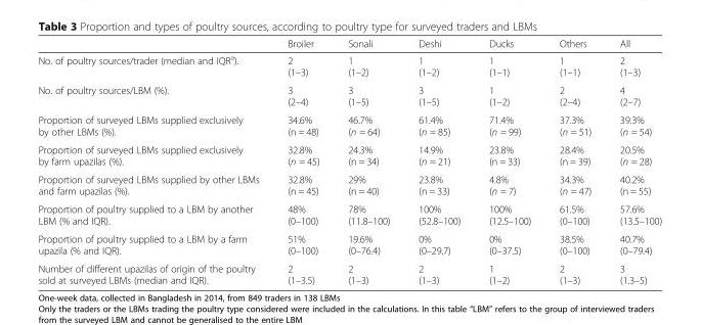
<table><thead><tr><td></td><td>Broiler</td><td>Sonali</td><td>Deshi</td><td>Ducks</td><td>Others</td><td>All</td></tr></thead><tbody><tr><td>No. of poultry sources/trader (median and IQR<sup>a</sup>).</td><td>2 (1–3)</td><td>1 (1–2)</td><td>1 (1–2)</td><td>1 (1–1)</td><td>1 (1–1)</td><td>2 (1–3)</td></tr><tr><td>No. of poultry sources/LBM (%).</td><td>3 (2–4)</td><td>3 (1–5)</td><td>3 (1–5)</td><td>1 (1–2)</td><td>2 (2–4)</td><td>4 (2–7)</td></tr><tr><td>Proportion of surveyed LBMs supplied exclusively by other LBMs (%).</td><td>34.6% (n = 48)</td><td>46.7% (n = 64)</td><td>61.4% (n = 85)</td><td>71.4% (n = 99)</td><td>37.3% (n = 51)</td><td>39.3% (n = 54)</td></tr><tr><td>Proportion of surveyed LBMs supplied exclusively by farm upazilas (%).</td><td>32.8% (n = 45)</td><td>24.3% (n = 34)</td><td>14.9% (n = 21)</td><td>23.8% (n = 33)</td><td>28.4% (n = 39)</td><td>20.5% (n = 28)</td></tr><tr><td>Proportion of surveyed LBMs supplied by other LBMs and farm upazilas (%).</td><td>32.8% (n = 45)</td><td>29% (n = 40)</td><td>23.8% (n = 33)</td><td>4.8% (n = 7)</td><td>34.3% (n = 47)</td><td>40.2% (n = 55)</td></tr><tr><td>Proportion of poultry supplied to a LBM by another LBM (% and IQR).</td><td>48% (0–100)</td><td>78% (11.8–100)</td><td>100% (52.8–100)</td><td>100% (12.5–100)</td><td>61.5% (0–100)</td><td>57.6% (13.5–100)</td></tr><tr><td>Proportion of poultry supplied to a LBM by a farm upazila (% and IQR).</td><td>51% (0–100)</td><td>19.6% (0–76.4)</td><td>0% (0–29.7)</td><td>0% (0–37.5)</td><td>38.5% (0–100)</td><td>40.7% (0–79.4)</td></tr><tr><td>Number of different upazilas of origin of the poultry sold at surveyed LBMs (median and IQR).</td><td>2 (1–3.5)</td><td>2 (1–3)</td><td>2 (1–3)</td><td>1 (1–2)</td><td>2 (1–3)</td><td>3 (1.3–5)</td></tr></tbody></table>